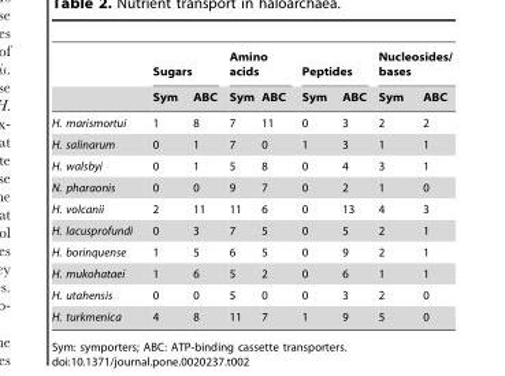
<table><thead><tr><td rowspan="2"></td><td colspan="2">Sugars</td><td colspan="2">Amino acids</td><td colspan="2">Peptides</td><td colspan="2">Nucleosides/ bases</td></tr><tr><td>Sym</td><td>ABC</td><td>Sym</td><td>ABC</td><td>Sym</td><td>ABC</td><td>Sym</td><td>ABC</td></tr></thead><tbody><tr><td>H. marismortui</td><td>1</td><td>8</td><td>7</td><td>11</td><td>0</td><td>3</td><td>2</td><td>2</td></tr><tr><td>H. salinarum</td><td>0</td><td>1</td><td>7</td><td>0</td><td>1</td><td>3</td><td>1</td><td>1</td></tr><tr><td>H. walsbyi</td><td>0</td><td>1</td><td>5</td><td>8</td><td>0</td><td>4</td><td>3</td><td>1</td></tr><tr><td>N. pharaonis</td><td>0</td><td>0</td><td>9</td><td>7</td><td>0</td><td>2</td><td>1</td><td>0</td></tr><tr><td>H. volcanii</td><td>2</td><td>11</td><td>11</td><td>6</td><td>0</td><td>13</td><td>4</td><td>3</td></tr><tr><td>H. lacusprofundi</td><td>0</td><td>3</td><td>7</td><td>5</td><td>0</td><td>5</td><td>2</td><td>1</td></tr><tr><td>H. borinquense</td><td>1</td><td>5</td><td>6</td><td>5</td><td>0</td><td>9</td><td>2</td><td>1</td></tr><tr><td>H. mukohataei</td><td>1</td><td>6</td><td>5</td><td>2</td><td>0</td><td>6</td><td>1</td><td>1</td></tr><tr><td>H. utahensis</td><td>0</td><td>0</td><td>5</td><td>0</td><td>0</td><td>3</td><td>2</td><td>0</td></tr><tr><td>H. turkmenica</td><td>4</td><td>8</td><td>11</td><td>7</td><td>1</td><td>9</td><td>5</td><td>0</td></tr></tbody></table>